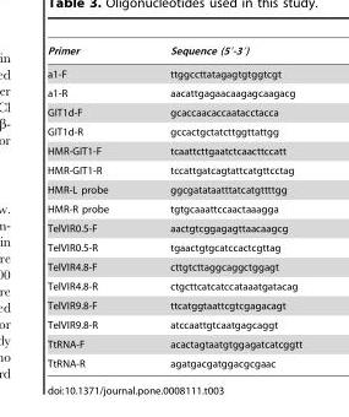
<table><thead><tr><td>Primer</td><td>Sequence (5′-3′)</td></tr></thead><tbody><tr><td>a1-F</td><td>ttggccttatagagtgtggtcgt</td></tr><tr><td>a1-R</td><td>aacattgagaacaagagcaagacg</td></tr><tr><td>GIT1d-F</td><td>gcaccaacaccaatacctacca</td></tr><tr><td>GIT1d-R</td><td>gccactgctatcttggttattgg</td></tr><tr><td>HMR-GIT1-F</td><td>tcaattcttgaatctcaacttccatt</td></tr><tr><td>HMR-GIT1-R</td><td>tccattgatcagtattcatgttcctag</td></tr><tr><td>HMR-L probe</td><td>ggcgatataatttatcatgttttgg</td></tr><tr><td>HMR-R probe</td><td>tgtgcaaattccaactaaagga</td></tr><tr><td>TelVIR0.5-F</td><td>aactgtcggagagttaacaagcg</td></tr><tr><td>TelVIR0.5-R</td><td>tgaactgtgcatccactcgttag</td></tr><tr><td>TelVIR4.8-F</td><td>cttgtcttaggcaggctggagt</td></tr><tr><td>TelVIR4.8-R</td><td>ctgcttcatcatccataaatgatacag</td></tr><tr><td>TelVIR9.8-F</td><td>ttcatggtaattcgtcgagacagt</td></tr><tr><td>TelVIR9.8-R</td><td>atccaattgtcaatgagcaggt</td></tr><tr><td>TtRNA-F</td><td>acactagtaatgtggagatcatcggtt</td></tr><tr><td>TtRNA-R</td><td>agatgacgatggacgcgaac</td></tr></tbody></table>